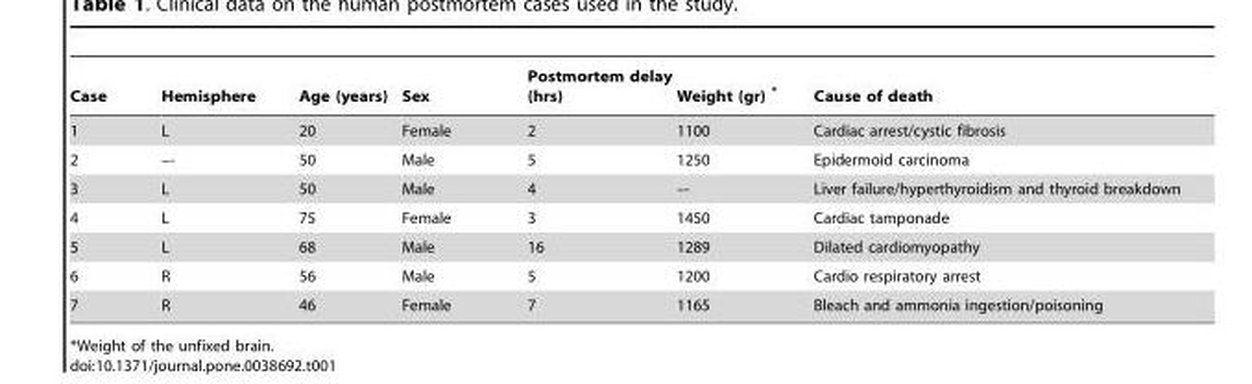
<table><thead><tr><td>Case</td><td>Hemisphere</td><td>Age (years)</td><td>Sex</td><td>Postmortem delay (hrs)</td><td>Weight (gr) *</td><td>Cause of death</td></tr></thead><tbody><tr><td>1</td><td>L</td><td>20</td><td>Female</td><td>2</td><td>1100</td><td>Cardiac arrest/cystic fibrosis</td></tr><tr><td>2</td><td>–-</td><td>50</td><td>Male</td><td>5</td><td>1250</td><td>Epidermoid carcinoma</td></tr><tr><td>3</td><td>L</td><td>50</td><td>Male</td><td>4</td><td>–-</td><td>Liver failure/hyperthyroidism and thyroid breakdown</td></tr><tr><td>4</td><td>L</td><td>75</td><td>Female</td><td>3</td><td>1450</td><td>Cardiac tamponade</td></tr><tr><td>5</td><td>L</td><td>68</td><td>Male</td><td>16</td><td>1289</td><td>Dilated cardiomyopathy</td></tr><tr><td>6</td><td>R</td><td>56</td><td>Male</td><td>5</td><td>1200</td><td>Cardio respiratory arrest</td></tr><tr><td>7</td><td>R</td><td>46</td><td>Female</td><td>7</td><td>1165</td><td>Bleach and ammonia ingestion/poisoning</td></tr></tbody></table>